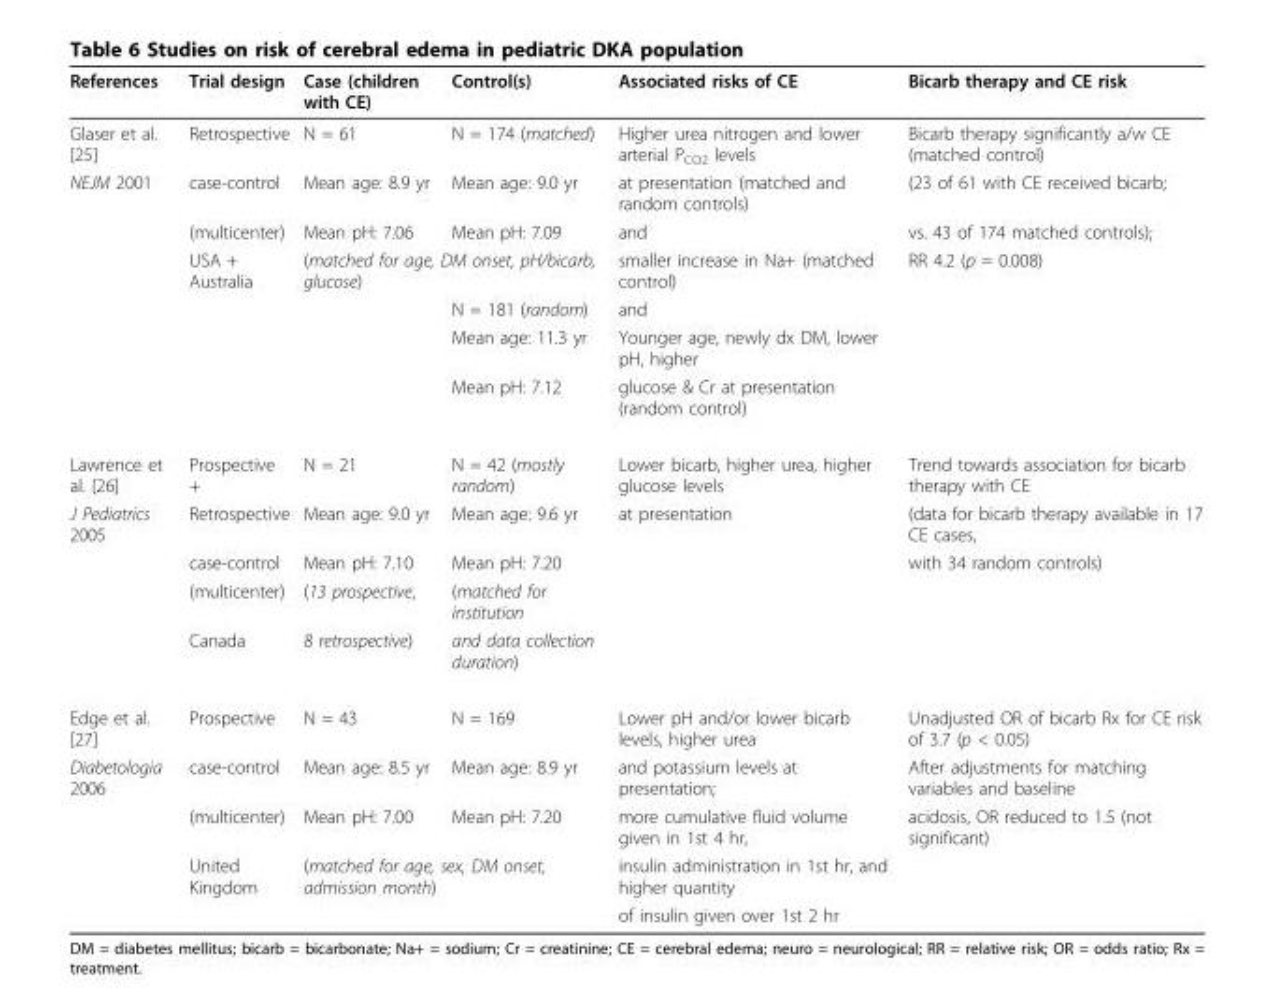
<table><thead><tr><td>References</td><td>Trial design</td><td>Case (children with CE)</td><td>Control(s)</td><td>Associated risks of CE</td><td>Bicarb therapy and CE risk</td></tr></thead><tbody><tr><td>Glaser et al. [25]</td><td>Retrospective</td><td>N = 61</td><td>N = 174 (matched)</td><td>Higher urea nitrogen and lower arterial P<sub>CO2</sub> levels</td><td>Bicarb therapy significantly a/w CE (matched control)</td></tr><tr><td rowspan="6">NEJM 2001</td><td>case-control</td><td>Mean age: 8.9 yr</td><td>Mean age: 9.0 yr</td><td>at presentation (matched and random controls)</td><td>(23 of 61 with CE received bicarb;</td></tr><tr><td>(multicenter)</td><td>Mean pH: 7.06</td><td>Mean pH: 7.09</td><td>and</td><td>vs. 43 of 174 matched controls);</td></tr><tr><td>USA + Australia</td><td colspan="2">(matched for age, DM onset, pH/bicarb, glucose)</td><td>smaller increase in Na+ (matched control)</td><td>RR 4.2 (p = 0.008)</td></tr><tr><td></td><td></td><td>N = 181 (random)</td><td>and</td><td></td></tr><tr><td></td><td></td><td>Mean age: 11.3 yr</td><td>Younger age, newly dx DM, lower pH, higher</td><td></td></tr><tr><td></td><td></td><td>Mean pH: 7.12</td><td>glucose &amp; Cr at presentation (random control)</td><td></td></tr><tr><td>Lawrence et al. [26]</td><td>Prospective +</td><td>N = 21</td><td>N = 42 (mostly random)</td><td>Lower bicarb, higher urea, higher glucose levels</td><td>Trend towards association for bicarb therapy with CE</td></tr><tr><td rowspan="4">J Pediatrics 2005</td><td>Retrospective</td><td>Mean age: 9.0 yr</td><td>Mean age: 9.6 yr</td><td>at presentation</td><td>(data for bicarb therapy available in 17 CE cases,</td></tr><tr><td>case-control</td><td>Mean pH: 7.10</td><td>Mean pH: 7.20</td><td></td><td>with 34 random controls)</td></tr><tr><td>(multicenter)</td><td>(13 prospective,</td><td>(matched for institution</td><td></td><td></td></tr><tr><td>Canada</td><td>8 retrospective)</td><td>and data collection duration)</td><td></td><td></td></tr><tr><td>Edge et al. [27]</td><td>Prospective</td><td>N = 43</td><td>N = 169</td><td>Lower pH and/or lower bicarb levels, higher urea</td><td>Unadjusted OR of bicarb Rx for CE risk of 3.7 (p &lt; 0.05)</td></tr><tr><td rowspan="4">Diabetologia 2006</td><td>case-control</td><td>Mean age: 8.5 yr</td><td>Mean age: 8.9 yr</td><td>and potassium levels at presentation;</td><td>After adjustments for matching variables and baseline</td></tr><tr><td>(multicenter)</td><td>Mean pH: 7.00</td><td>Mean pH: 7.20</td><td>more cumulative fluid volume given in 1st 4 hr,</td><td>acidosis, OR reduced to 1.5 (not significant)</td></tr><tr><td>United Kingdom</td><td colspan="2">(matched for age, sex, DM onset, admission month)</td><td>insulin administration in 1st hr, and higher quantity</td><td></td></tr><tr><td></td><td></td><td></td><td>of insulin given over 1st 2 hr</td><td></td></tr></tbody></table>